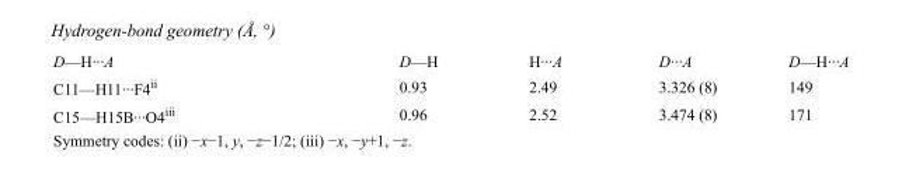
<table><tbody><tr><td>D—H···A</td><td>D—H</td><td>H···A</td><td>D···A</td><td>D—H···A</td></tr><tr><td>C11—H11···F4<sup>ii</sup></td><td>0.93</td><td>2.49</td><td>3.326 (8)</td><td>149</td></tr><tr><td>C15—H15B···O4<sup>iii</sup></td><td>0.96</td><td>2.52</td><td>3.474 (8)</td><td>171</td></tr></tbody></table>